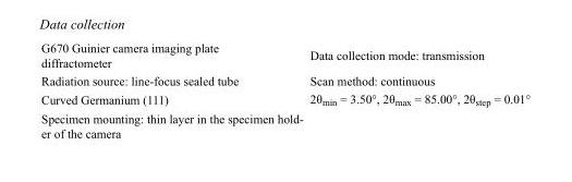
<table><tbody><tr><td>G670 Guinier camera imaging plate diffractometer</td><td>Data collection mode: transmission</td></tr><tr><td>Radiation source: line-focus sealed tube</td><td>Scan method: continuous</td></tr><tr><td>Curved Germanium (111)</td><td>2θ<sub>min</sub> = 3.50°, 2θ<sub>max</sub> = 85.00°, 2θ<sub>step</sub> = 0.01°</td></tr><tr><td>Specimen mounting: thin layer in the specimen hold- er of the camera</td><td></td></tr></tbody></table>